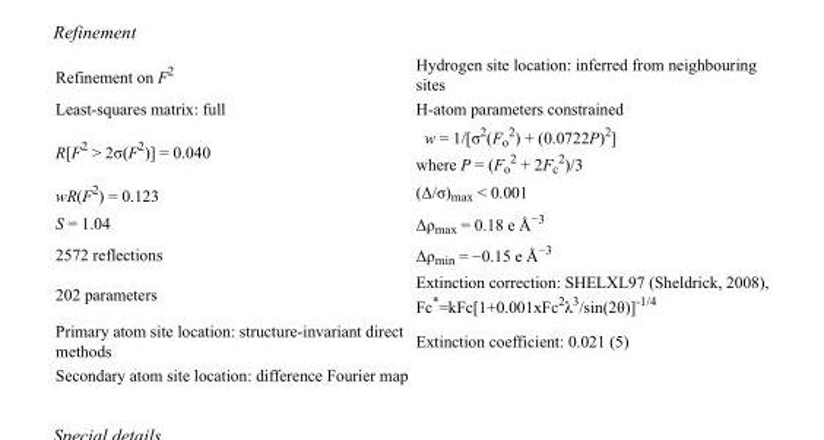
<table><tbody><tr><td>Refinement on F<sup>2</sup></td><td>Hydrogen site location: inferred from neighbouring sites</td></tr><tr><td>Least-squares matrix: full</td><td>H-atom parameters constrained</td></tr><tr><td>R[F<sup>2</sup> &gt; 2σ(F<sup>2</sup>)] = 0.040</td><td>w = 1/[σ<sup>2</sup>(F<sub>o</sub> <sup>2</sup>) + (0.0722P)<sup>2</sup>] where P = (F<sub>o</sub> <sup>2</sup> + 2F<sub>c</sub> <sup>2</sup>)/3</td></tr><tr><td>wR(F<sup>2</sup>) = 0.123</td><td>(Δ/σ)<sub>max</sub> &lt; 0.001</td></tr><tr><td>S = 1.04</td><td>Δρ<sub>max</sub> = 0.18 e Å<sup>−3</sup></td></tr><tr><td>2572 reflections</td><td>Δρ<sub>min</sub> = −0.15 e Å<sup>−3</sup></td></tr><tr><td>202 parameters</td><td>Extinction correction: SHELXL97 (Sheldrick, 2008), Fc*=kFc[1+0.001xFc<sup>2</sup>λ<sup>3</sup>/sin(2θ)]<sup>-1/4</sup></td></tr><tr><td>Primary atom site location: structure-invariant direct methods</td><td>Extinction coefficient: 0.021 (5)</td></tr><tr><td>Secondary atom site location: difference Fourier map</td><td></td></tr></tbody></table>